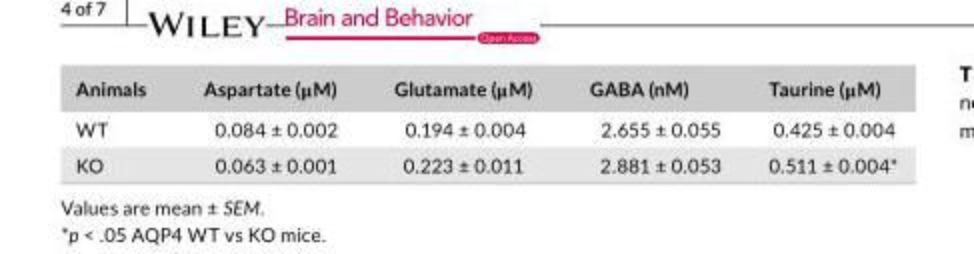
<table><thead><tr><td>Animals</td><td>Aspartate (μM)</td><td>Glutamate (μM)</td><td>GABA (nM)</td><td>Taurine (μM)</td></tr></thead><tbody><tr><td>WT</td><td>0.084 ± 0.002</td><td>0.194 ± 0.004</td><td>2.655 ± 0.055</td><td>0.425 ± 0.004</td></tr><tr><td>KO</td><td>0.063 ± 0.001</td><td>0.223 ± 0.011</td><td>2.881 ± 0.053</td><td>0.511 ± 0.004*</td></tr></tbody></table>